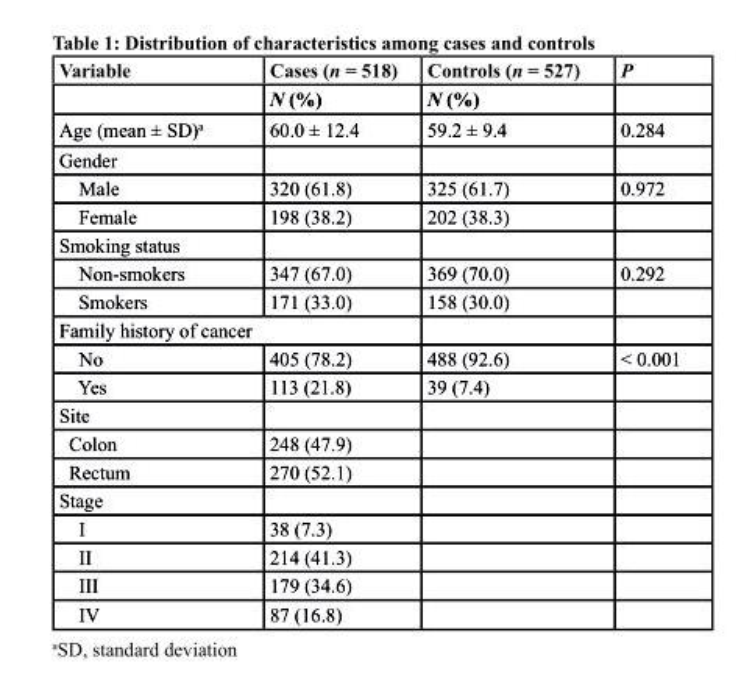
<table><thead><tr><td rowspan="2">Variable</td><td rowspan="2">cases (n = 518) N (%)</td><td rowspan="2">controls (n = 527) N (%)</td><td rowspan="2">P</td></tr><tr></tr></thead><tbody><tr><td>Age (mean ± SD)<sup>a</sup></td><td>60.0 ± 12.4</td><td>59.2 ± 9.4</td><td>0.284</td></tr><tr><td colspan="4">Gender</td></tr><tr><td>Male</td><td>320 (61.8)</td><td>325 (61.7)</td><td>0.972</td></tr><tr><td>Female</td><td>198 (38.2)</td><td>202 (38.3)</td><td></td></tr><tr><td colspan="4">Smoking status</td></tr><tr><td>Non-smokers</td><td>347 (67.0)</td><td>369 (70.0)</td><td>0.292</td></tr><tr><td>Smokers</td><td>171 (33.0)</td><td>158 (30.0)</td><td></td></tr><tr><td colspan="4">Family history of cancer</td></tr><tr><td>No</td><td>405 (78.2)</td><td>488 (92.6)</td><td>&lt; 0.001</td></tr><tr><td>Yes</td><td>113 (21.8)</td><td>39 (7.4)</td><td></td></tr><tr><td colspan="4">Site</td></tr><tr><td>Colon</td><td>248 (47.9)</td><td></td><td></td></tr><tr><td>Rectum</td><td>270 (52.1)</td><td></td><td></td></tr><tr><td colspan="4">Stage</td></tr><tr><td>I</td><td>38 (7.3)</td><td></td><td></td></tr><tr><td>II</td><td>214 (41.3)</td><td></td><td></td></tr><tr><td>III</td><td>179 (34.6)</td><td></td><td></td></tr><tr><td>IV</td><td>87 (16.8)</td><td></td><td></td></tr></tbody></table>